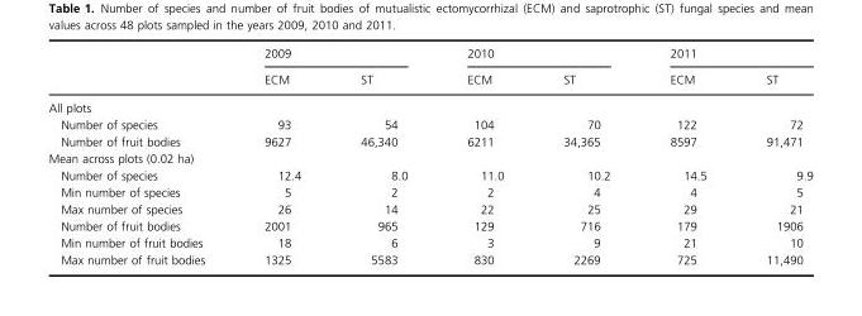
<table><thead><tr><td rowspan="2"></td><td colspan="2">2009</td><td colspan="2">2010</td><td colspan="2">2011</td></tr><tr><td>ECM</td><td>ST</td><td>ECM</td><td>ST</td><td>ECM</td><td>ST</td></tr></thead><tbody><tr><td colspan="7">All plots</td></tr><tr><td>Number of species</td><td>93</td><td>54</td><td>104</td><td>70</td><td>122</td><td>72</td></tr><tr><td>Number of fruit bodies</td><td>9627</td><td>46,340</td><td>6211</td><td>34,365</td><td>8597</td><td>91,471</td></tr><tr><td colspan="7">Mean across plots (0.02 ha)</td></tr><tr><td>Number of species</td><td>12.4</td><td>8.0</td><td>11.0</td><td>10.2</td><td>14.5</td><td>9.9</td></tr><tr><td>Min number of species</td><td>5</td><td>2</td><td>2</td><td>4</td><td>4</td><td>5</td></tr><tr><td>Max number of species</td><td>26</td><td>14</td><td>22</td><td>25</td><td>29</td><td>21</td></tr><tr><td>Number of fruit bodies</td><td>2001</td><td>965</td><td>129</td><td>716</td><td>179</td><td>1906</td></tr><tr><td>Min number of fruit bodies</td><td>18</td><td>6</td><td>3</td><td>9</td><td>21</td><td>10</td></tr><tr><td>Max number of fruit bodies</td><td>1325</td><td>5583</td><td>830</td><td>2269</td><td>725</td><td>11,490</td></tr></tbody></table>